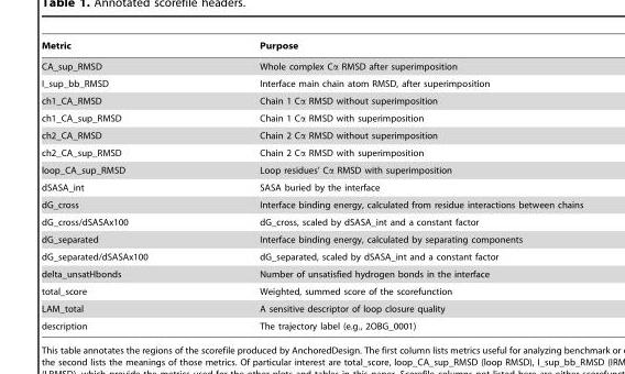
<table><thead><tr><td>Metric</td><td>Purpose</td></tr></thead><tbody><tr><td>CA_sup_RMSD</td><td>Whole complex Cα RMSD after superimposition</td></tr><tr><td>I_sup_bb_RMSD</td><td>Interface main chain atom RMSD, after superimposition</td></tr><tr><td>ch1_CA_RMSD</td><td>Chain 1 Cα RMSD without superimposition</td></tr><tr><td>ch1_CA_sup_RMSD</td><td>Chain 1 Cα RMSD with superimposition</td></tr><tr><td>ch2_CA_RMSD</td><td>Chain 2 Cα RMSD without superimposition</td></tr><tr><td>ch2_CA_sup_RMSD</td><td>Chain 2 Cα RMSD with superimposition</td></tr><tr><td>loop_CA_sup_RMSD</td><td>Loop residues’ Cα RMSD with superimposition</td></tr><tr><td>dSASA_int</td><td>SASA buried by the interface</td></tr><tr><td>dG_cross</td><td>Interface binding energy, calculated from residue interactions between chains</td></tr><tr><td>dG_cross/dSASAx100</td><td>dG_cross, scaled by dSASA_int and a constant factor</td></tr><tr><td>dG_separated</td><td>Interface binding energy, calculated by separating components</td></tr><tr><td>dG_separated/dSASAx100</td><td>dG_separated, scaled by dSASA_int and a constant factor</td></tr><tr><td>delta_unsatHbonds</td><td>Number of unsatisfied hydrogen bonds in the interface</td></tr><tr><td>total_score</td><td>Weighted, summed score of the scorefunction</td></tr><tr><td>LAM_total</td><td>A sensitive descriptor of loop closure quality</td></tr><tr><td>description</td><td>The trajectory label (e.g., 2OBG_0001)</td></tr></tbody></table>